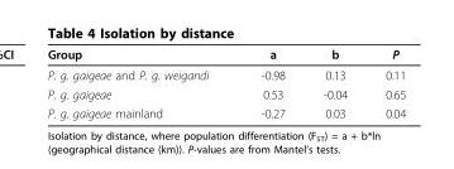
<table><thead><tr><td>Group</td><td>a</td><td>b</td><td>P</td></tr></thead><tbody><tr><td>P. g. gaigeae and P. g. weigandi</td><td>-0.98</td><td>0.13</td><td>0.11</td></tr><tr><td>P. g. gaigeae</td><td>0.53</td><td>-0.04</td><td>0.65</td></tr><tr><td>P. g. gaigeae mainland</td><td>-0.27</td><td>0.03</td><td>0.04</td></tr></tbody></table>